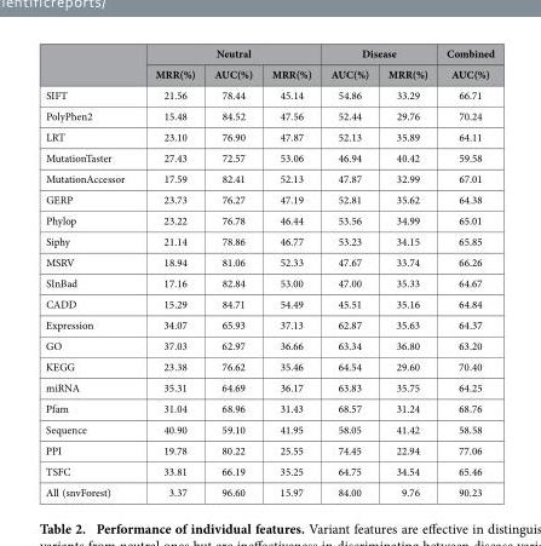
<table><thead><tr><td rowspan="2"></td><td colspan="3">Neutral</td><td colspan="2">Disease</td><td rowspan="2">Combined AUC(%)</td></tr><tr><td>MRR(%)</td><td>AUC(%)</td><td>MRR(%)</td><td>AUC(%)</td><td>MRR(%)</td></tr></thead><tbody><tr><td>SIFT</td><td>21.56</td><td>78.44</td><td>45.14</td><td>54.86</td><td>33.29</td><td>66.71</td></tr><tr><td>PolyPhen2</td><td>15.48</td><td>84.52</td><td>47.56</td><td>52.44</td><td>29.76</td><td>70.24</td></tr><tr><td>LRT</td><td>23.10</td><td>76.90</td><td>47.87</td><td>52.13</td><td>35.89</td><td>64.11</td></tr><tr><td>MutationTaster</td><td>27.43</td><td>72.57</td><td>53.06</td><td>46.94</td><td>40.42</td><td>59.58</td></tr><tr><td>MutationAccessor</td><td>17.59</td><td>82.41</td><td>52.13</td><td>47.87</td><td>32.99</td><td>67.01</td></tr><tr><td>GERP</td><td>23.73</td><td>76.27</td><td>47.19</td><td>52.81</td><td>35.62</td><td>64.38</td></tr><tr><td>Phylop</td><td>23.22</td><td>76.78</td><td>46.44</td><td>53.56</td><td>34.99</td><td>65.01</td></tr><tr><td>Siphy</td><td>21.14</td><td>78.86</td><td>46.77</td><td>53.23</td><td>34.15</td><td>65.85</td></tr><tr><td>MSRV</td><td>18.94</td><td>81.06</td><td>52.33</td><td>47.67</td><td>33.74</td><td>66.26</td></tr><tr><td>SInBad</td><td>17.16</td><td>82.84</td><td>53.00</td><td>47.00</td><td>35.33</td><td>64.67</td></tr><tr><td>CADD</td><td>15.29</td><td>84.71</td><td>54.49</td><td>45.51</td><td>35.16</td><td>64.84</td></tr><tr><td>Expression</td><td>34.07</td><td>65.93</td><td>37.13</td><td>62.87</td><td>35.63</td><td>64.37</td></tr><tr><td>GO</td><td>37.03</td><td>62.97</td><td>36.66</td><td>63.34</td><td>36.80</td><td>63.20</td></tr><tr><td>KEGG</td><td>23.38</td><td>76.62</td><td>35.46</td><td>64.54</td><td>29.60</td><td>70.40</td></tr><tr><td>miRNA</td><td>35.31</td><td>64.69</td><td>36.17</td><td>63.83</td><td>35.75</td><td>64.25</td></tr><tr><td>Pfam</td><td>31.04</td><td>68.96</td><td>31.43</td><td>68.57</td><td>31.24</td><td>68.76</td></tr><tr><td>Sequence</td><td>40.90</td><td>59.10</td><td>41.95</td><td>58.05</td><td>41.42</td><td>58.58</td></tr><tr><td>PPI</td><td>19.78</td><td>80.22</td><td>25.55</td><td>74.45</td><td>22.94</td><td>77.06</td></tr><tr><td>TSFC</td><td>33.81</td><td>66.19</td><td>35.25</td><td>64.75</td><td>34.54</td><td>65.46</td></tr><tr><td>All (snvForest)</td><td>3.37</td><td>96.60</td><td>15.97</td><td>84.00</td><td>9.76</td><td>90.23</td></tr></tbody></table>